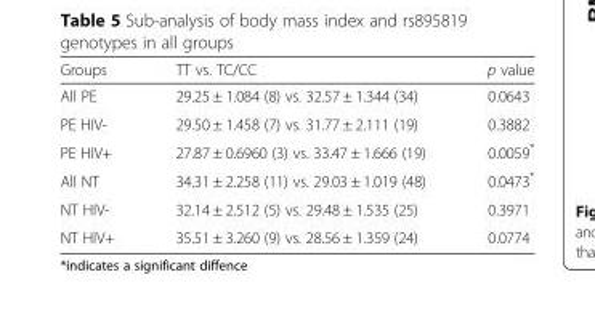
<table><thead><tr><td>Groups</td><td>TT vs. TC/CC</td><td>p value</td></tr></thead><tbody><tr><td>All PE</td><td>29.25 ± 1.084 (8) vs. 32.57 ± 1.344 (34)</td><td>0.0643</td></tr><tr><td>PE HIV-</td><td>29.50 ± 1.458 (7) vs. 31.77 ± 2.111 (19)</td><td>0.3882</td></tr><tr><td>PE HIV+</td><td>27.87 ± 0.6960 (3) vs. 33.47 ± 1.666 (19)</td><td>0.0059*</td></tr><tr><td>All NT</td><td>34.31 ± 2.258 (11) vs. 29.03 ± 1.019 (48)</td><td>0.0473*</td></tr><tr><td>NT HIV-</td><td>32.14 ± 2.512 (5) vs. 29.48 ± 1.535 (25)</td><td>0.3971</td></tr><tr><td>NT HIV+</td><td>35.51 ± 3.260 (9) vs. 28.56 ± 1.359 (24)</td><td>0.0774</td></tr></tbody></table>